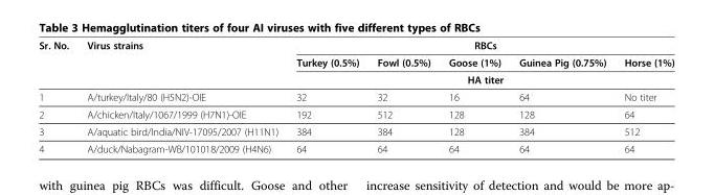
<table><thead><tr><td rowspan="3">Sr. No.</td><td rowspan="3">Virus strains</td><td rowspan="3">Turkey (0.5%)</td><td rowspan="3">Fowl (0.5%)</td><td rowspan="3">RBCs Goose (1%) HA titer</td><td rowspan="3">Guinea Pig (0.75%)</td><td rowspan="3">Horse (1%)</td></tr><tr></tr><tr></tr></thead><tbody><tr><td>1</td><td>A/turkey/Italy/80 (H5N2)-OIE</td><td>32</td><td>32</td><td>16</td><td>64</td><td>No titer</td></tr><tr><td>2</td><td>A/chicken/Italy/1067/1999 (H7N1)-OIE</td><td>192</td><td>512</td><td>128</td><td>128</td><td>64</td></tr><tr><td>3</td><td>A/aquatic bird/India/NIV-17095/2007 (H11N1)</td><td>384</td><td>384</td><td>128</td><td>384</td><td>512</td></tr><tr><td>4</td><td>A/duck/Nabagram-WB/101018/2009 (H4N6)</td><td>64</td><td>64</td><td>64</td><td>64</td><td>64</td></tr></tbody></table>